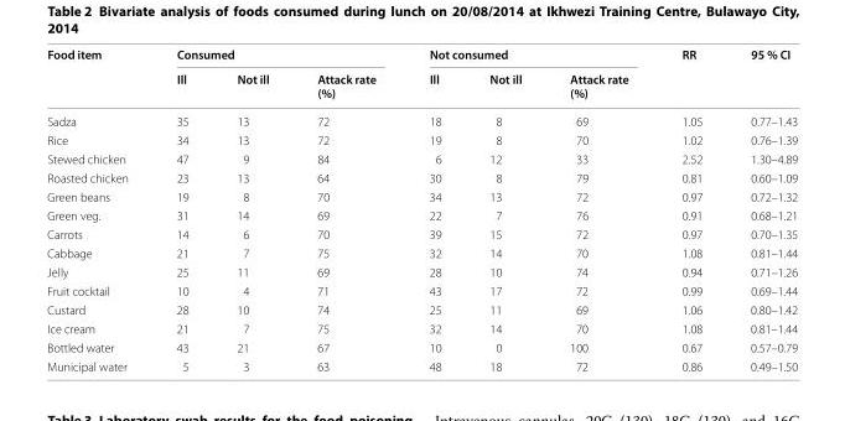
<table><thead><tr><td rowspan="2">Food item</td><td colspan="3">Consumed</td><td colspan="3">Not consumed</td><td rowspan="2">RR</td><td rowspan="2">95 % CI</td></tr><tr><td>Ill</td><td>Not ill</td><td>Attack rate (%)</td><td>Ill</td><td>Not ill</td><td>Attack rate (%)</td></tr></thead><tbody><tr><td>Sadza</td><td>35</td><td>13</td><td>72</td><td>18</td><td>8</td><td>69</td><td>1.05</td><td>0.77–1.43</td></tr><tr><td>Rice</td><td>34</td><td>13</td><td>72</td><td>19</td><td>8</td><td>70</td><td>1.02</td><td>0.76–1.39</td></tr><tr><td>Stewed chicken</td><td>47</td><td>9</td><td>84</td><td>6</td><td>12</td><td>33</td><td>2.52</td><td>1.30–4.89</td></tr><tr><td>Roasted chicken</td><td>23</td><td>13</td><td>64</td><td>30</td><td>8</td><td>79</td><td>0.81</td><td>0.60–1.09</td></tr><tr><td>Green beans</td><td>19</td><td>8</td><td>70</td><td>34</td><td>13</td><td>72</td><td>0.97</td><td>0.72–1.32</td></tr><tr><td>Green veg.</td><td>31</td><td>14</td><td>69</td><td>22</td><td>7</td><td>76</td><td>0.91</td><td>0.68–1.21</td></tr><tr><td>Carrots</td><td>14</td><td>6</td><td>70</td><td>39</td><td>15</td><td>72</td><td>0.97</td><td>0.70–1.35</td></tr><tr><td>Cabbage</td><td>21</td><td>7</td><td>75</td><td>32</td><td>14</td><td>70</td><td>1.08</td><td>0.81–1.44</td></tr><tr><td>Jelly</td><td>25</td><td>11</td><td>69</td><td>28</td><td>10</td><td>74</td><td>0.94</td><td>0.71–1.26</td></tr><tr><td>Fruit cocktail</td><td>10</td><td>4</td><td>71</td><td>43</td><td>17</td><td>72</td><td>0.99</td><td>0.69–1.44</td></tr><tr><td>Custard</td><td>28</td><td>10</td><td>74</td><td>25</td><td>11</td><td>69</td><td>1.06</td><td>0.80–1.42</td></tr><tr><td>Ice cream</td><td>21</td><td>7</td><td>75</td><td>32</td><td>14</td><td>70</td><td>1.08</td><td>0.81–1.44</td></tr><tr><td>Bottled water</td><td>43</td><td>21</td><td>67</td><td>10</td><td>0</td><td>100</td><td>0.67</td><td>0.57–0.79</td></tr><tr><td>Municipal water</td><td>5</td><td>3</td><td>63</td><td>48</td><td>18</td><td>72</td><td>0.86</td><td>0.49–1.50</td></tr></tbody></table>